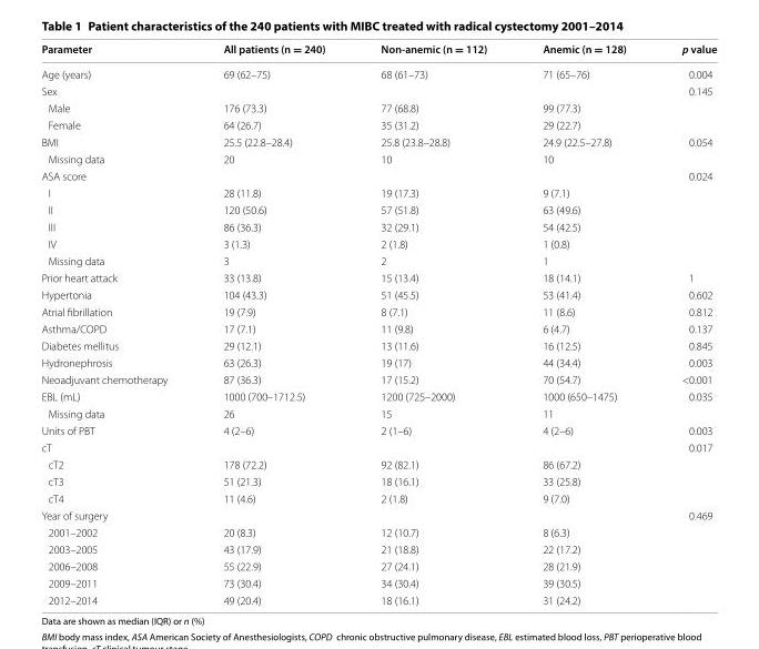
<table><thead><tr><td>Parameter</td><td>All patients (n = 240)</td><td>Non-anemic (n = 112)</td><td>Anemic (n = 128)</td><td>p value</td></tr></thead><tbody><tr><td>Age (years)</td><td>69 (62–75)</td><td>68 (61–73)</td><td>71 (65–76)</td><td>0.004</td></tr><tr><td>Sex</td><td></td><td></td><td></td><td>0.145</td></tr><tr><td>Male</td><td>176 (73.3)</td><td>77 (68.8)</td><td>99 (77.3)</td><td></td></tr><tr><td>Female</td><td>64 (26.7)</td><td>35 (31.2)</td><td>29 (22.7)</td><td></td></tr><tr><td>BMI</td><td>25.5 (22.8–28.4)</td><td>25.8 (23.8–28.8)</td><td>24.9 (22.5–27.8)</td><td>0.054</td></tr><tr><td>Missing data</td><td>20</td><td>10</td><td>10</td><td></td></tr><tr><td>ASA score</td><td></td><td></td><td></td><td>0.024</td></tr><tr><td>I</td><td>28 (11.8)</td><td>19 (17.3)</td><td>9 (7.1)</td><td></td></tr><tr><td>II</td><td>120 (50.6)</td><td>57 (51.8)</td><td>63 (49.6)</td><td></td></tr><tr><td>III</td><td>86 (36.3)</td><td>32 (29.1)</td><td>54 (42.5)</td><td></td></tr><tr><td>IV</td><td>3 (1.3)</td><td>2 (1.8)</td><td>1 (0.8)</td><td></td></tr><tr><td>Missing data</td><td>3</td><td>2</td><td>1</td><td></td></tr><tr><td>Prior heart attack</td><td>33 (13.8)</td><td>15 (13.4)</td><td>18 (14.1)</td><td>1</td></tr><tr><td>Hypertonia</td><td>104 (43.3)</td><td>51 (45.5)</td><td>53 (41.4)</td><td>0.602</td></tr><tr><td>Atrial fibrillation</td><td>19 (7.9)</td><td>8 (7.1)</td><td>11 (8.6)</td><td>0.812</td></tr><tr><td>Asthma/COPD</td><td>17 (7.1)</td><td>11 (9.8)</td><td>6 (4.7)</td><td>0.137</td></tr><tr><td>Diabetes mellitus</td><td>29 (12.1)</td><td>13 (11.6)</td><td>16 (12.5)</td><td>0.845</td></tr><tr><td>Hydronephrosis</td><td>63 (26.3)</td><td>19 (17)</td><td>44 (34.4)</td><td>0.003</td></tr><tr><td>Neoadjuvant chemotherapy</td><td>87 (36.3)</td><td>17 (15.2)</td><td>70 (54.7)</td><td>&lt;0.001</td></tr><tr><td>EBL (mL)</td><td>1000 (700–1712.5)</td><td>1200 (725–2000)</td><td>1000 (650–1475)</td><td>0.035</td></tr><tr><td>Missing data</td><td>26</td><td>15</td><td>11</td><td></td></tr><tr><td>Units of PBT</td><td>4 (2–6)</td><td>2 (1–6)</td><td>4 (2–6)</td><td>0.003</td></tr><tr><td>cT</td><td></td><td></td><td></td><td>0.017</td></tr><tr><td>cT2</td><td>178 (72.2)</td><td>92 (82.1)</td><td>86 (67.2)</td><td></td></tr><tr><td>cT3</td><td>51 (21.3)</td><td>18 (16.1)</td><td>33 (25.8)</td><td></td></tr><tr><td>cT4</td><td>11 (4.6)</td><td>2 (1.8)</td><td>9 (7.0)</td><td></td></tr><tr><td>Year of surgery</td><td></td><td></td><td></td><td>0.469</td></tr><tr><td>2001–2002</td><td>20 (8.3)</td><td>12 (10.7)</td><td>8 (6.3)</td><td></td></tr><tr><td>2003–2005</td><td>43 (17.9)</td><td>21 (18.8)</td><td>22 (17.2)</td><td></td></tr><tr><td>2006–2008</td><td>55 (22.9)</td><td>27 (24.1)</td><td>28 (21.9)</td><td></td></tr><tr><td>2009–2011</td><td>73 (30.4)</td><td>34 (30.4)</td><td>39 (30.5)</td><td></td></tr><tr><td>2012–2014</td><td>49 (20.4)</td><td>18 (16.1)</td><td>31 (24.2)</td><td></td></tr></tbody></table>